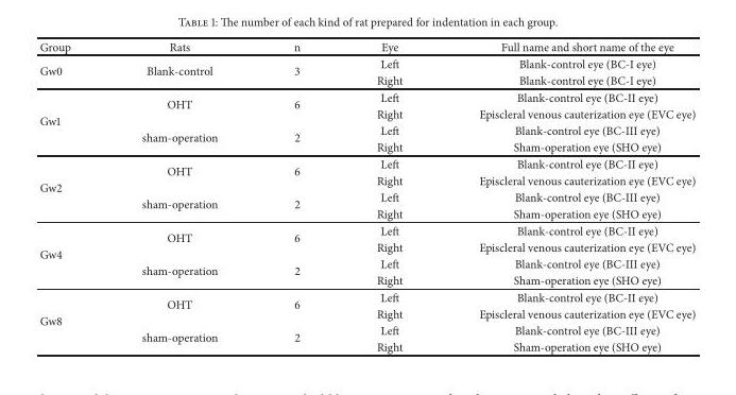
<table><thead><tr><td>Group</td><td>Rats</td><td>n</td><td>Eye</td><td>Full name and short name of the eye</td></tr></thead><tbody><tr><td rowspan="2">Gw0</td><td rowspan="2">Blank-control</td><td rowspan="2">3</td><td>Left</td><td>Blank-control eye (BC-I eye)</td></tr><tr><td>Right</td><td>Blank-control eye (BC-I eye)</td></tr><tr><td rowspan="4">Gw1</td><td rowspan="2">OHT</td><td rowspan="2">6</td><td>Left</td><td>Blank-control eye (BC-II eye)</td></tr><tr><td>Right</td><td>Episcleral venous cauterization eye (EVC eye)</td></tr><tr><td rowspan="2">sham-operation</td><td rowspan="2">2</td><td>Left</td><td>Blank-control eye (BC-III eye)</td></tr><tr><td>Right</td><td>Sham-operation eye (SHO eye)</td></tr><tr><td rowspan="4">Gw2</td><td rowspan="2">OHT</td><td rowspan="2">6</td><td>Left</td><td>Blank-control eye (BC-II eye)</td></tr><tr><td>Right</td><td>Episcleral venous cauterization eye (EVC eye)</td></tr><tr><td rowspan="2">sham-operation</td><td rowspan="2">2</td><td>Left</td><td>Blank-control eye (BC-III eye)</td></tr><tr><td>Right</td><td>Sham-operation eye (SHO eye)</td></tr><tr><td rowspan="4">Gw4</td><td rowspan="2">OHT</td><td rowspan="2">6</td><td>Left</td><td>Blank-control eye (BC-II eye)</td></tr><tr><td>Right</td><td>Episcleral venous cauterization eye (EVC eye)</td></tr><tr><td rowspan="2">sham-operation</td><td rowspan="2">2</td><td>Left</td><td>Blank-control eye (BC-III eye)</td></tr><tr><td>Right</td><td>Sham-operation eye (SHO eye)</td></tr><tr><td rowspan="4">Gw8</td><td rowspan="2">OHT</td><td rowspan="2">6</td><td>Left</td><td>Blank-control eye (BC-II eye)</td></tr><tr><td>Right</td><td>Episcleral venous cauterization eye (EVC eye)</td></tr><tr><td rowspan="2">sham-operation</td><td rowspan="2">2</td><td>Left</td><td>Blank-control eye (BC-III eye)</td></tr><tr><td>Right</td><td>Sham-operation eye (SHO eye)</td></tr></tbody></table>